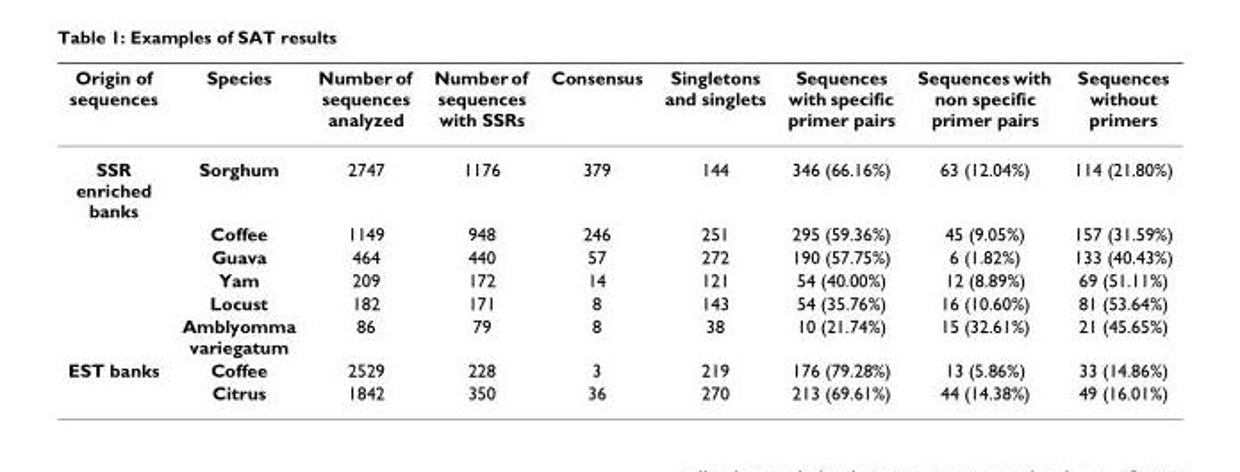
<table><thead><tr><td>Origin of sequences</td><td>Species</td><td>Number of sequences analyzed</td><td>Number of sequences with SSRs</td><td>Consensus</td><td>Singletons and singlets</td><td>Sequences with specific primer pairs</td><td>Sequences with non specific primer pairs</td><td>Sequences without primers</td></tr></thead><tbody><tr><td rowspan="6">SSR enriched banks</td><td>Sorghum</td><td>2747</td><td>1176</td><td>379</td><td>144</td><td>346 (66.16%)</td><td>63 (12.04%)</td><td>114 (21.80%)</td></tr><tr><td>Coffee</td><td>1149</td><td>948</td><td>246</td><td>251</td><td>295 (59.36%)</td><td>45 (9.05%)</td><td>157 (31.59%)</td></tr><tr><td>Guava</td><td>464</td><td>440</td><td>57</td><td>272</td><td>190 (57.75%)</td><td>6 (1.82%)</td><td>133 (40.43%)</td></tr><tr><td>Yam</td><td>209</td><td>172</td><td>14</td><td>121</td><td>54 (40.00%)</td><td>12 (8.89%)</td><td>69 (51.11%)</td></tr><tr><td>Locust</td><td>182</td><td>171</td><td>8</td><td>143</td><td>54 (35.76%)</td><td>16 (10.60%)</td><td>81 (53.64%)</td></tr><tr><td>Amblyomma variegatum</td><td>86</td><td>79</td><td>8</td><td>38</td><td>10 (21.74%)</td><td>15 (32.61%)</td><td>21 (45.65%)</td></tr><tr><td rowspan="2">EST banks</td><td>Coffee</td><td>2529</td><td>228</td><td>3</td><td>219</td><td>176 (79.28%)</td><td>13 (5.86%)</td><td>33 (14.86%)</td></tr><tr><td>Citrus</td><td>1842</td><td>350</td><td>36</td><td>270</td><td>213 (69.61%)</td><td>44 (14.38%)</td><td>49 (16.01%)</td></tr></tbody></table>